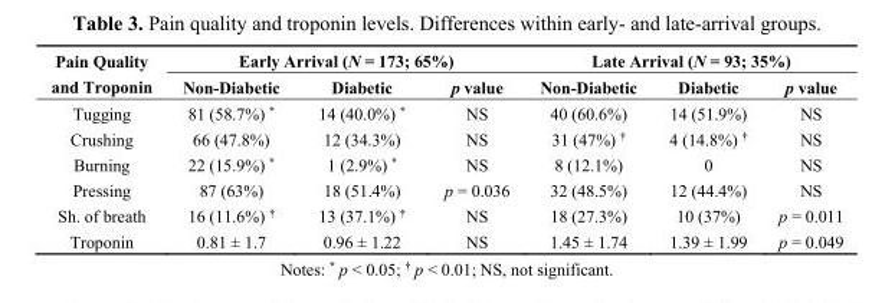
<table><thead><tr><td rowspan="2">Pain Quality and Troponin</td><td colspan="3">Early Arrival (N = 173; 65%)</td><td colspan="3">Late Arrival (N = 93; 35%)</td></tr><tr><td>Non-Diabetic</td><td>Diabetic</td><td>p value</td><td>Non-Diabetic</td><td>Diabetic</td><td>p value</td></tr></thead><tbody><tr><td>Tugging</td><td>81 (58.7%) *</td><td>14 (40.0%) *</td><td>NS</td><td>40 (60.6%)</td><td>14 (51.9%)</td><td>NS</td></tr><tr><td>Crushing</td><td>66 (47.8%)</td><td>12 (34.3%)</td><td>NS</td><td>31 (47%) <sup>†</sup></td><td>4 (14.8%) <sup>†</sup></td><td>NS</td></tr><tr><td>Burning</td><td>22 (15.9%) *</td><td>1 (2.9%) *</td><td>NS</td><td>8 (12.1%)</td><td>0</td><td>NS</td></tr><tr><td>Pressing</td><td>87 (63%)</td><td>18 (51.4%)</td><td>p = 0.036</td><td>32 (48.5%)</td><td>12 (44.4%)</td><td>NS</td></tr><tr><td>Sh. of breath</td><td>16 (11.6%) <sup>†</sup></td><td>13 (37.1%) <sup>†</sup></td><td>NS</td><td>18 (27.3%)</td><td>10 (37%)</td><td>p = 0.011</td></tr><tr><td>Troponin</td><td>0.81 ± 1.7</td><td>0.96 ± 1.22</td><td>NS</td><td>1.45 ± 1.74</td><td>1.39 ± 1.99</td><td>p = 0.049</td></tr></tbody></table>